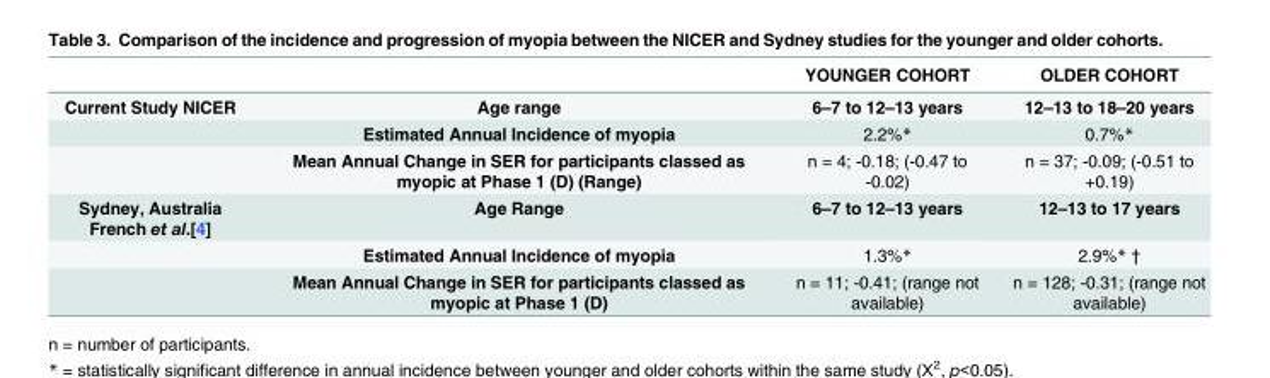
<table><thead><tr><td></td><td></td><td>YOUNGER COHORT</td><td>OLDER COHORT</td></tr></thead><tbody><tr><td rowspan="3">Current Study NICER</td><td>Age range</td><td>6–7 to 12–13 years</td><td>12–13 to 18–20 years</td></tr><tr><td>Estimated Annual Incidence of myopia</td><td>2.2%*</td><td>0.7%*</td></tr><tr><td>Mean Annual Change in SER for participants classed as myopic at Phase 1 (D) (Range)</td><td>n = 4; -0.18; (-0.47 to -0.02)</td><td>n = 37; -0.09; (-0.51 to +0.19)</td></tr><tr><td rowspan="3">Sydney, Australia French et al.[4]</td><td>Age Range</td><td>6–7 to 12–13 years</td><td>12–13 to 17 years</td></tr><tr><td>Estimated Annual Incidence of myopia</td><td>1.3%*</td><td>2.9%* †</td></tr><tr><td>Mean Annual Change in SER for participants classed as myopic at Phase 1 (D)</td><td>n = 11; -0.41; (range not available)</td><td>n = 128; -0.31; (range not available)</td></tr></tbody></table>